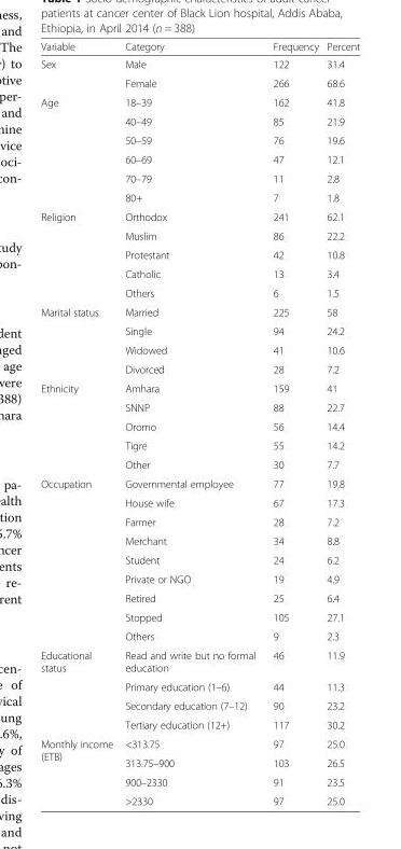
<table><thead><tr><td>Variable</td><td>Category</td><td>Frequency</td><td>Percent</td></tr></thead><tbody><tr><td rowspan="2">Sex</td><td>Male</td><td>122</td><td>31.4</td></tr><tr><td>Female</td><td>266</td><td>68.6</td></tr><tr><td rowspan="6">Age</td><td>18–39</td><td>162</td><td>41.8</td></tr><tr><td>40–49</td><td>85</td><td>21.9</td></tr><tr><td>50–59</td><td>76</td><td>19.6</td></tr><tr><td>60–69</td><td>47</td><td>12.1</td></tr><tr><td>70–79</td><td>11</td><td>2.8</td></tr><tr><td>80+</td><td>7</td><td>1.8</td></tr><tr><td rowspan="5">Religion</td><td>Orthodox</td><td>241</td><td>62.1</td></tr><tr><td>Muslim</td><td>86</td><td>22.2</td></tr><tr><td>Protestant</td><td>42</td><td>10.8</td></tr><tr><td>Catholic</td><td>13</td><td>3.4</td></tr><tr><td>Others</td><td>6</td><td>1.5</td></tr><tr><td rowspan="4">Marital status</td><td>Married</td><td>225</td><td>58</td></tr><tr><td>Single</td><td>94</td><td>24.2</td></tr><tr><td>Widowed</td><td>41</td><td>10.6</td></tr><tr><td>Divorced</td><td>28</td><td>7.2</td></tr><tr><td rowspan="5">Ethnicity</td><td>Amhara</td><td>159</td><td>41</td></tr><tr><td>SNNP</td><td>88</td><td>22.7</td></tr><tr><td>Oromo</td><td>56</td><td>14.4</td></tr><tr><td>Tigre</td><td>55</td><td>14.2</td></tr><tr><td>Other</td><td>30</td><td>7.7</td></tr><tr><td rowspan="9">Occupation</td><td>Governmental employee</td><td>77</td><td>19.8</td></tr><tr><td>House wife</td><td>67</td><td>17.3</td></tr><tr><td>Farmer</td><td>28</td><td>7.2</td></tr><tr><td>Merchant</td><td>34</td><td>8.8</td></tr><tr><td>Student</td><td>24</td><td>6.2</td></tr><tr><td>Private or NGO</td><td>19</td><td>4.9</td></tr><tr><td>Retired</td><td>25</td><td>6.4</td></tr><tr><td>Stopped</td><td>105</td><td>27.1</td></tr><tr><td>Others</td><td>9</td><td>2.3</td></tr><tr><td rowspan="4">Educational status</td><td>Read and write but no formal education</td><td>46</td><td>11.9</td></tr><tr><td>Primary education (1–6)</td><td>44</td><td>11.3</td></tr><tr><td>Secondary education (7–12)</td><td>90</td><td>23.2</td></tr><tr><td>Tertiary education (12+)</td><td>117</td><td>30.2</td></tr><tr><td rowspan="4">Monthly income (ETB)</td><td>&lt;313.75</td><td>97</td><td>25.0</td></tr><tr><td>313.75–900</td><td>103</td><td>26.5</td></tr><tr><td>900–2330</td><td>91</td><td>23.5</td></tr><tr><td>&gt;2330</td><td>97</td><td>25.0</td></tr></tbody></table>